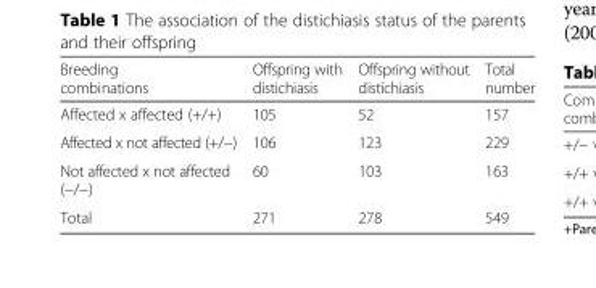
<table><thead><tr><td>Breeding combinations</td><td>Offspring with distichiasis</td><td>Offspring without distichiasis</td><td>Total number</td></tr></thead><tbody><tr><td>Affected x affected (+/+)</td><td>105</td><td>52</td><td>157</td></tr><tr><td>Affected x not affected (+/−)</td><td>106</td><td>123</td><td>229</td></tr><tr><td>Not affected x not affected (−/−)</td><td>60</td><td>103</td><td>163</td></tr><tr><td>Total</td><td>271</td><td>278</td><td>549</td></tr></tbody></table>